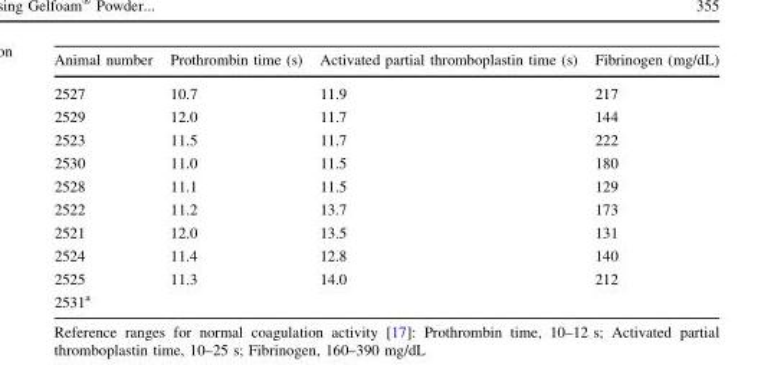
<table><thead><tr><td>Animal number</td><td>Prothrombin time (s)</td><td>Activated partial thromboplastin time (s)</td><td>Fibrinogen (mg/dL)</td></tr></thead><tbody><tr><td>2527</td><td>10.7</td><td>11.9</td><td>217</td></tr><tr><td>2529</td><td>12.0</td><td>11.7</td><td>144</td></tr><tr><td>2523</td><td>11.5</td><td>11.7</td><td>222</td></tr><tr><td>2530</td><td>11.0</td><td>11.5</td><td>180</td></tr><tr><td>2528</td><td>11.1</td><td>11.5</td><td>129</td></tr><tr><td>2522</td><td>11.2</td><td>13.7</td><td>173</td></tr><tr><td>2521</td><td>12.0</td><td>13.5</td><td>131</td></tr><tr><td>2524</td><td>11.4</td><td>12.8</td><td>140</td></tr><tr><td>2525</td><td>11.3</td><td>14.0</td><td>212</td></tr><tr><td>2531<sup>a</sup></td><td></td><td></td><td></td></tr></tbody></table>